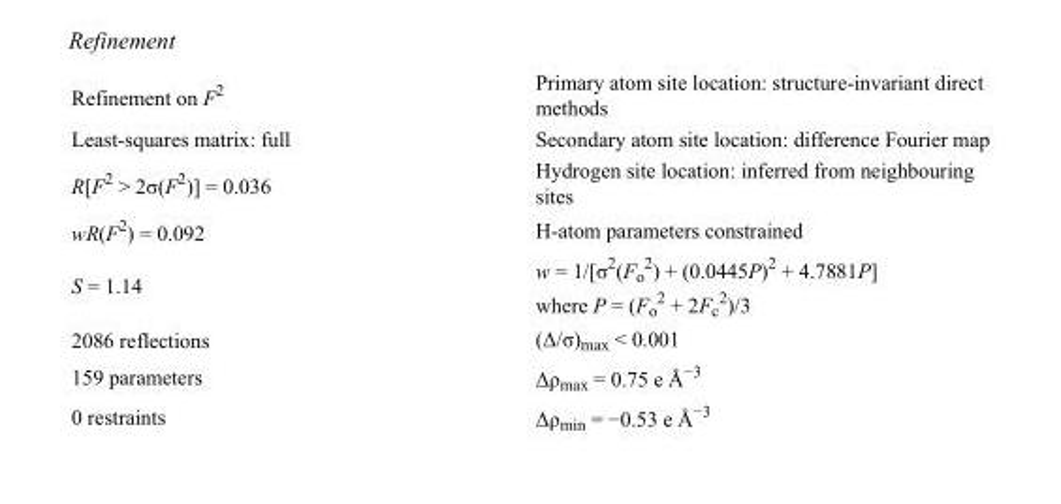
<table><tbody><tr><td>Refinement on F<sup>2</sup></td><td>Primary atom site location: structure-invariant direct methods</td></tr><tr><td>Least-squares matrix: full</td><td>Secondary atom site location: difference Fourier map</td></tr><tr><td>R[F<sup>2</sup> &gt; 2σ(F<sup>2</sup>)] = 0.036</td><td>Hydrogen site location: inferred from neighbouring sites</td></tr><tr><td>wR(F<sup>2</sup>) = 0.092</td><td>H-atom parameters constrained</td></tr><tr><td>S = 1.14</td><td>w = 1/[σ<sup>2</sup>(F<sub>o</sub> <sup>2</sup>) + (0.0445P)<sup>2</sup> + 4.7881P] where P = (F<sub>o</sub> <sup>2</sup> + 2F<sub>c</sub> <sup>2</sup>)/3</td></tr><tr><td>2086 reflections</td><td>(Δ/σ)<sub>max</sub> &lt; 0.001</td></tr><tr><td>159 parameters</td><td>Δρ<sub>max</sub> = 0.75 e Å<sup>−3</sup></td></tr><tr><td>0 restraints</td><td>Δρ<sub>min</sub> = −0.53 e Å<sup>−3</sup></td></tr></tbody></table>